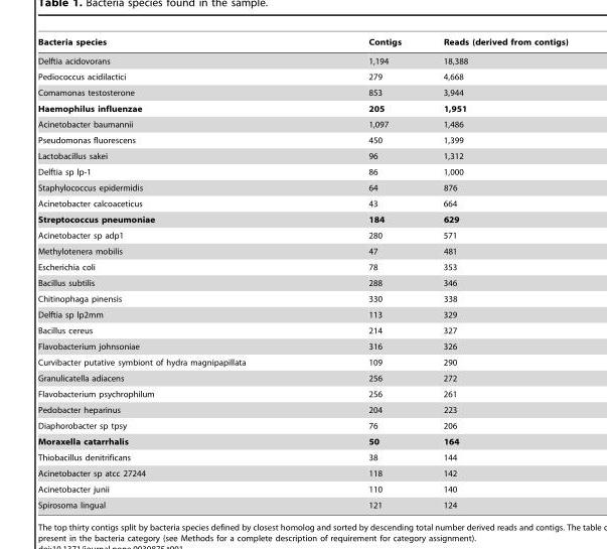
<table><thead><tr><td>Bacteria species</td><td>Contigs</td><td>Reads (derived from contigs)</td></tr></thead><tbody><tr><td>Delftia acidovorans</td><td>1,194</td><td>18,388</td></tr><tr><td>Pediococcus acidilactici</td><td>279</td><td>4,668</td></tr><tr><td>Comamonas testosterone</td><td>853</td><td>3,944</td></tr><tr><td>Haemophilus influenzae</td><td>205</td><td>1,951</td></tr><tr><td>Acinetobacter baumannii</td><td>1,097</td><td>1,486</td></tr><tr><td>Pseudomonas fluorescens</td><td>450</td><td>1,399</td></tr><tr><td>Lactobacillus sakei</td><td>96</td><td>1,312</td></tr><tr><td>Delftia sp lp-1</td><td>86</td><td>1,000</td></tr><tr><td>Staphylococcus epidermidis</td><td>64</td><td>876</td></tr><tr><td>Acinetobacter calcoaceticus</td><td>43</td><td>664</td></tr><tr><td>Streptococcus pneumoniae</td><td>184</td><td>629</td></tr><tr><td>Acinetobacter sp adp1</td><td>280</td><td>571</td></tr><tr><td>Methylotenera mobilis</td><td>47</td><td>481</td></tr><tr><td>Escherichia coli</td><td>78</td><td>353</td></tr><tr><td>Bacillus subtilis</td><td>288</td><td>346</td></tr><tr><td>Chitinophaga pinensis</td><td>330</td><td>338</td></tr><tr><td>Delftia sp lp2mm</td><td>113</td><td>329</td></tr><tr><td>Bacillus cereus</td><td>214</td><td>327</td></tr><tr><td>Flavobacterium johnsoniae</td><td>316</td><td>326</td></tr><tr><td>Curvibacter putative symbiont of hydra magnipapillata</td><td>109</td><td>290</td></tr><tr><td>Granulicatella adiacens</td><td>256</td><td>272</td></tr><tr><td>Flavobacterium psychrophilum</td><td>256</td><td>261</td></tr><tr><td>Pedobacter heparinus</td><td>204</td><td>223</td></tr><tr><td>Diaphorobacter sp tpsy</td><td>76</td><td>206</td></tr><tr><td>Moraxella catarrhalis</td><td>50</td><td>164</td></tr><tr><td>Thiobacillus denitrificans</td><td>38</td><td>144</td></tr><tr><td>Acinetobacter sp atcc 27244</td><td>118</td><td>142</td></tr><tr><td>Acinetobacter junii</td><td>110</td><td>140</td></tr><tr><td>Spirosoma lingual</td><td>121</td><td>124</td></tr></tbody></table>